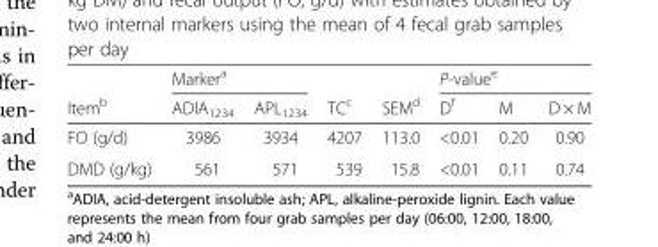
<table><thead><tr><td rowspan="2">Item<sup>b</sup></td><td colspan="2">Marker<sup>a</sup></td><td rowspan="2">TC<sup>c</sup></td><td rowspan="2">SEM<sup>d</sup></td><td colspan="3">P-value<sup>e</sup></td></tr><tr><td>ADIA<sub>1234</sub></td><td>APL<sub>1234</sub></td><td>D<sup>f</sup></td><td>M</td><td>D × M</td></tr></thead><tbody><tr><td>FO (g/d)</td><td>3986</td><td>3934</td><td>4207</td><td>113.0</td><td>&lt;0.01</td><td>0.20</td><td>0.90</td></tr><tr><td>DMD (g/kg)</td><td>561</td><td>571</td><td>539</td><td>15.8</td><td>&lt;0.01</td><td>0.11</td><td>0.74</td></tr></tbody></table>